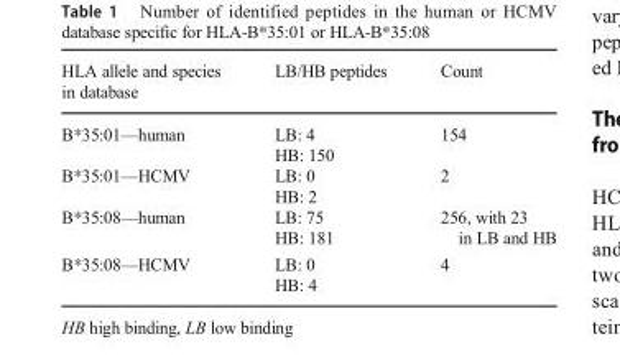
<table><thead><tr><td>HLA allele and species in database</td><td>LB/HB peptides</td><td>Count</td></tr></thead><tbody><tr><td>B*35:01—human</td><td>LB: 4 HB: 150</td><td>154</td></tr><tr><td>B*35:01—HCMV</td><td>LB: 0 HB: 2</td><td>2</td></tr><tr><td>B*35:08—human</td><td>LB: 75 HB: 181</td><td>256, with 23 in LB and HB</td></tr><tr><td>B*35:08—HCMV</td><td>LB: 0 HB: 4</td><td>4</td></tr></tbody></table>